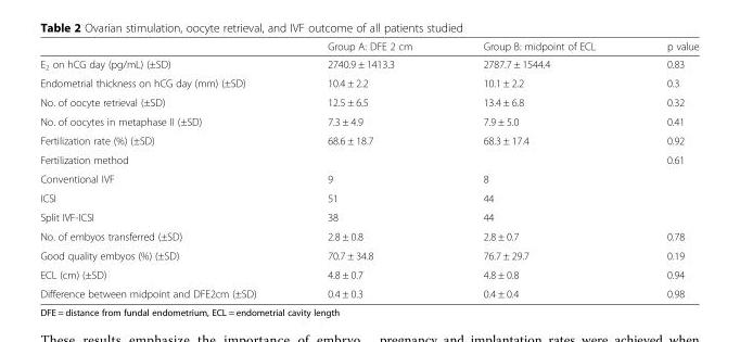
<table><thead><tr><td></td><td>Group A: DFE 2 cm</td><td>Group B: midpoint of ECL</td><td>p value</td></tr></thead><tbody><tr><td>E<sub>2</sub> on hCG day (pg/mL) (±SD)</td><td>2740.9 ± 1413.3</td><td>2787.7 ± 1544.4</td><td>0.83</td></tr><tr><td>Endometrial thickness on hCG day (mm) (±SD)</td><td>10.4 ± 2.2</td><td>10.1 ± 2.2</td><td>0.3</td></tr><tr><td>No. of oocyte retrieval (±SD)</td><td>12.5 ± 6.5</td><td>13.4 ± 6.8</td><td>0.32</td></tr><tr><td>No. of oocytes in metaphase II (±SD)</td><td>7.3 ± 4.9</td><td>7.9 ± 5.0</td><td>0.41</td></tr><tr><td>Fertilization rate (%) (±SD)</td><td>68.6 ± 18.7</td><td>68.3 ± 17.4</td><td>0.92</td></tr><tr><td>Fertilization method</td><td></td><td></td><td>0.61</td></tr><tr><td>Conventional IVF</td><td>9</td><td>8</td><td></td></tr><tr><td>ICSI</td><td>51</td><td>44</td><td></td></tr><tr><td>Split IVF-ICSI</td><td>38</td><td>44</td><td></td></tr><tr><td>No. of embyos transferred (±SD)</td><td>2.8 ± 0.8</td><td>2.8 ± 0.7</td><td>0.78</td></tr><tr><td>Good quality embyos (%) (±SD)</td><td>70.7 ± 34.8</td><td>76.7 ± 29.7</td><td>0.19</td></tr><tr><td>ECL (cm) (±SD)</td><td>4.8 ± 0.7</td><td>4.8 ± 0.8</td><td>0.94</td></tr><tr><td>Difference between midpoint and DFE2cm (±SD)</td><td>0.4 ± 0.3</td><td>0.4 ± 0.4</td><td>0.98</td></tr></tbody></table>